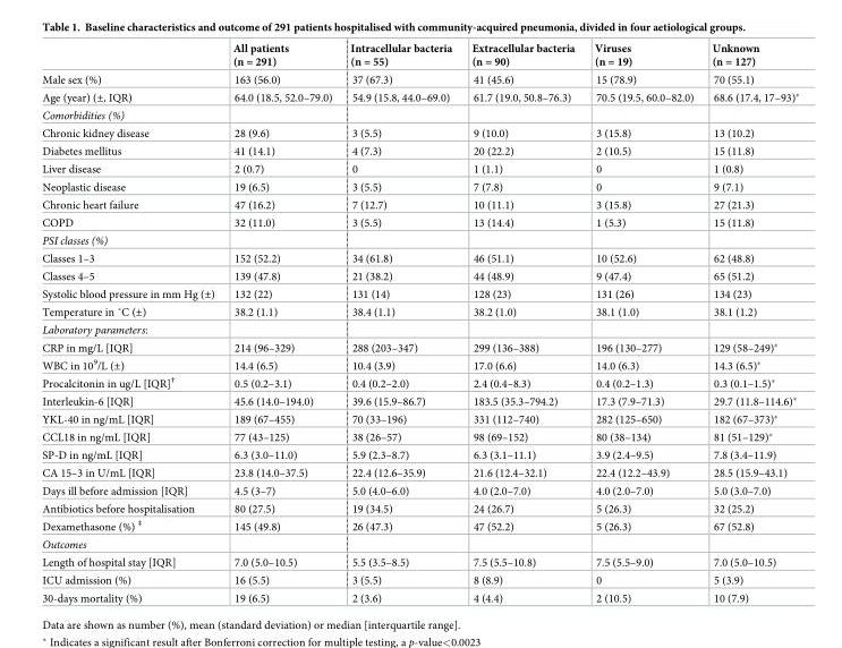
<table><thead><tr><td></td><td>All patients (n = 291)</td><td>Intracellular bacteria (n = 55)</td><td>Extracellular bacteria (n = 90)</td><td>Viruses (n = 19)</td><td>Unknown (n = 127)</td></tr></thead><tbody><tr><td>Male sex (%)</td><td>163 (56.0)</td><td>37 (67.3)</td><td>41 (45.6)</td><td>15 (78.9)</td><td>70 (55.1)</td></tr><tr><td>Age (year) (±, IQR)</td><td>64.0 (18.5, 52.0–79.0)</td><td>54.9 (15.8, 44.0–69.0)</td><td>61.7 (19.0, 50.8–76.3)</td><td>70.5 (19.5, 60.0–82.0)</td><td>68.6 (17.4, 17–93)*</td></tr><tr><td colspan="6">Comorbidities (%)</td></tr><tr><td>Chronic kidney disease</td><td>28 (9.6)</td><td>3 (5.5)</td><td>9 (10.0)</td><td>3 (15.8)</td><td>13 (10.2)</td></tr><tr><td>Diabetes mellitus</td><td>41 (14.1)</td><td>4 (7.3)</td><td>20 (22.2)</td><td>2 (10.5)</td><td>15 (11.8)</td></tr><tr><td>Liver disease</td><td>2 (0.7)</td><td>0</td><td>1 (1.1)</td><td>0</td><td>1 (0.8)</td></tr><tr><td>Neoplastic disease</td><td>19 (6.5)</td><td>3 (5.5)</td><td>7 (7.8)</td><td>0</td><td>9 (7.1)</td></tr><tr><td>Chronic heart failure</td><td>47 (16.2)</td><td>7 (12.7)</td><td>10 (11.1)</td><td>3 (15.8)</td><td>27 (21.3)</td></tr><tr><td>COPD</td><td>32 (11.0)</td><td>3 (5.5)</td><td>13 (14.4)</td><td>1 (5.3)</td><td>15 (11.8)</td></tr><tr><td colspan="6">PSI classes (%)</td></tr><tr><td>Classes 1–3</td><td>152 (52.2)</td><td>34 (61.8)</td><td>46 (51.1)</td><td>10 (52.6)</td><td>62 (48.8)</td></tr><tr><td>Classes 4–5</td><td>139 (47.8)</td><td>21 (38.2)</td><td>44 (48.9)</td><td>9 (47.4)</td><td>65 (51.2)</td></tr><tr><td>Systolic blood pressure in mm Hg (±)</td><td>132 (22)</td><td>131 (14)</td><td>128 (23)</td><td>131 (26)</td><td>134 (23)</td></tr><tr><td>Temperature in ˚C (±)</td><td>38.2 (1.1)</td><td>38.4 (1.1)</td><td>38.2 (1.0)</td><td>38.1 (1.0)</td><td>38.1 (1.2)</td></tr><tr><td colspan="6">Laboratory parameters:</td></tr><tr><td>CRP in mg/L [IQR]</td><td>214 (96–329)</td><td>288 (203–347)</td><td>299 (136–388)</td><td>196 (130–277)</td><td>129 (58–249)*</td></tr><tr><td>WBC in 10<sup>9</sup>/L (±)</td><td>14.4 (6.5)</td><td>10.4 (3.9)</td><td>17.0 (6.6)</td><td>14.0 (6.3)</td><td>14.3 (6.5)*</td></tr><tr><td>Procalcitonin in ug/L [IQR]<sup>†</sup></td><td>0.5 (0.2–3.1)</td><td>0.4 (0.2–2.0)</td><td>2.4 (0.4–8.3)</td><td>0.4 (0.2–1.3)</td><td>0.3 (0.1–1.5)*</td></tr><tr><td>Interleukin-6 [IQR]</td><td>45.6 (14.0–194.0)</td><td>39.6 (15.9–86.7)</td><td>183.5 (35.3–794.2)</td><td>17.3 (7.9–71.3)</td><td>29.7 (11.8–114.6)*</td></tr><tr><td>YKL-40 in ng/mL [IQR]</td><td>189 (67–455)</td><td>70 (33–196)</td><td>331 (112–740)</td><td>282 (125–650)</td><td>182 (67–373)*</td></tr><tr><td>CCL18 in ng/mL [IQR]</td><td>77 (43–125)</td><td>38 (26–57)</td><td>98 (69–152)</td><td>80 (38–134)</td><td>81 (51–129)*</td></tr><tr><td>SP-D in ng/mL [IQR]</td><td>6.3 (3.0–11.0)</td><td>5.9 (2.3–8.7)</td><td>6.3 (3.1–11.1)</td><td>3.9 (2.4–9.5)</td><td>7.8 (3.4–11.9)</td></tr><tr><td>CA 15–3 in U/mL [IQR]</td><td>23.8 (14.0–37.5)</td><td>22.4 (12.6–35.9)</td><td>21.6 (12.4–32.1)</td><td>22.4 (12.2–43.9)</td><td>28.5 (15.9–43.1)</td></tr><tr><td>Days ill before admission [IQR]</td><td>4.5 (3–7)</td><td>5.0 (4.0–6.0)</td><td>4.0 (2.0–7.0)</td><td>4.0 (2.0–7.0)</td><td>5.0 (3.0–7.0)</td></tr><tr><td>Antibiotics before hospitalisation</td><td>80 (27.5)</td><td>19 (34.5)</td><td>24 (26.7)</td><td>5 (26.3)</td><td>32 (25.2)</td></tr><tr><td>Dexamethasone (%) <sup>‡</sup></td><td>145 (49.8)</td><td>26 (47.3)</td><td>47 (52.2)</td><td>5 (26.3)</td><td>67 (52.8)</td></tr><tr><td colspan="6">Outcomes</td></tr><tr><td>Length of hospital stay [IQR]</td><td>7.0 (5.0–10.5)</td><td>5.5 (3.5–8.5)</td><td>7.5 (5.5–10.8)</td><td>7.5 (5.5–9.0)</td><td>7.0 (5.0–10.5)</td></tr><tr><td>ICU admission (%)</td><td>16 (5.5)</td><td>3 (5.5)</td><td>8 (8.9)</td><td>0</td><td>5 (3.9)</td></tr><tr><td>30-days mortality (%)</td><td>19 (6.5)</td><td>2 (3.6)</td><td>4 (4.4)</td><td>2 (10.5)</td><td>10 (7.9)</td></tr></tbody></table>